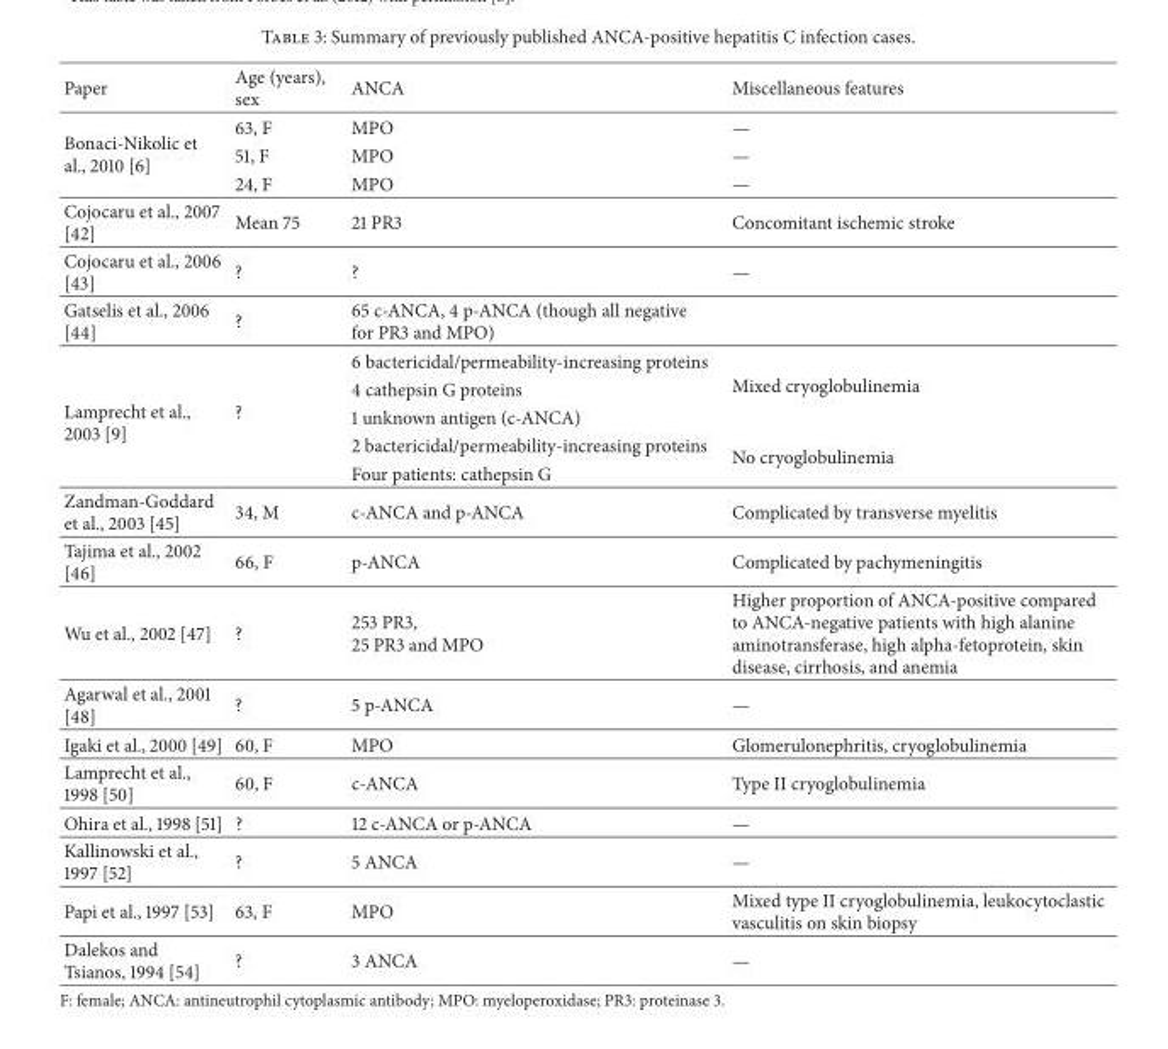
<table><thead><tr><td>Paper</td><td>Age (years), sex</td><td>ANCA</td><td>Miscellaneous features</td></tr></thead><tbody><tr><td rowspan="3">Bonaci-Nikolic et al., 2010 [6]</td><td>63, F</td><td>MPO</td><td>—</td></tr><tr><td>51, F</td><td>MPO</td><td>—</td></tr><tr><td>24, F</td><td>MPO</td><td>—</td></tr><tr><td>Cojocaru et al., 2007 [42]</td><td>Mean 75</td><td>21 PR3</td><td>Concomitant ischemic stroke</td></tr><tr><td>Cojocaru et al., 2006 [43]</td><td>?</td><td>?</td><td>—</td></tr><tr><td>Gatselis et al., 2006 [44]</td><td>?</td><td>65 c-ANCA, 4 p-ANCA (though all negative for PR3 and MPO)</td><td></td></tr><tr><td rowspan="5">Lamprecht et al., 2003 [9]</td><td rowspan="5">?</td><td>6 bactericidal/permeability-increasing proteins</td><td rowspan="3">Mixed cryoglobulinemia</td></tr><tr><td>4 cathepsin G proteins</td></tr><tr><td>1 unknown antigen (c-ANCA)</td></tr><tr><td>2 bactericidal/permeability-increasing proteins</td><td rowspan="2">No cryoglobulinemia</td></tr><tr><td>Four patients: cathepsin G</td></tr><tr><td>Zandman-Goddard et al., 2003 [45]</td><td>34, M</td><td>c-ANCA and p-ANCA</td><td>Complicated by transverse myelitis</td></tr><tr><td>Tajima et al., 2002 [46]</td><td>66, F</td><td>p-ANCA</td><td>Complicated by pachymeningitis</td></tr><tr><td>Wu et al., 2002 [47]</td><td>?</td><td>253 PR3, 25 PR3 and MPO</td><td>Higher proportion of ANCA-positive compared to ANCA-negative patients with high alanine aminotransferase, high alpha-fetoprotein, skin disease, cirrhosis, and anemia</td></tr><tr><td>Agarwal et al., 2001 [48]</td><td>?</td><td>5 p-ANCA</td><td>—</td></tr><tr><td>Igaki et al., 2000 [49]</td><td>60, F</td><td>MPO</td><td>Glomerulonephritis, cryoglobulinemia</td></tr><tr><td>Lamprecht et al., 1998 [50]</td><td>60, F</td><td>c-ANCA</td><td>Type II cryoglobulinemia</td></tr><tr><td>Ohira et al., 1998 [51]</td><td>?</td><td>12 c-ANCA or p-ANCA</td><td>—</td></tr><tr><td>Kallinowski et al., 1997 [52]</td><td>?</td><td>5 ANCA</td><td>—</td></tr><tr><td>Papi et al., 1997 [53]</td><td>63, F</td><td>MPO</td><td>Mixed type II cryoglobulinemia, leukocytoclastic vasculitis on skin biopsy</td></tr><tr><td>Dalekos and Tsianos, 1994 [54]</td><td>?</td><td>3 ANCA</td><td>—</td></tr></tbody></table>